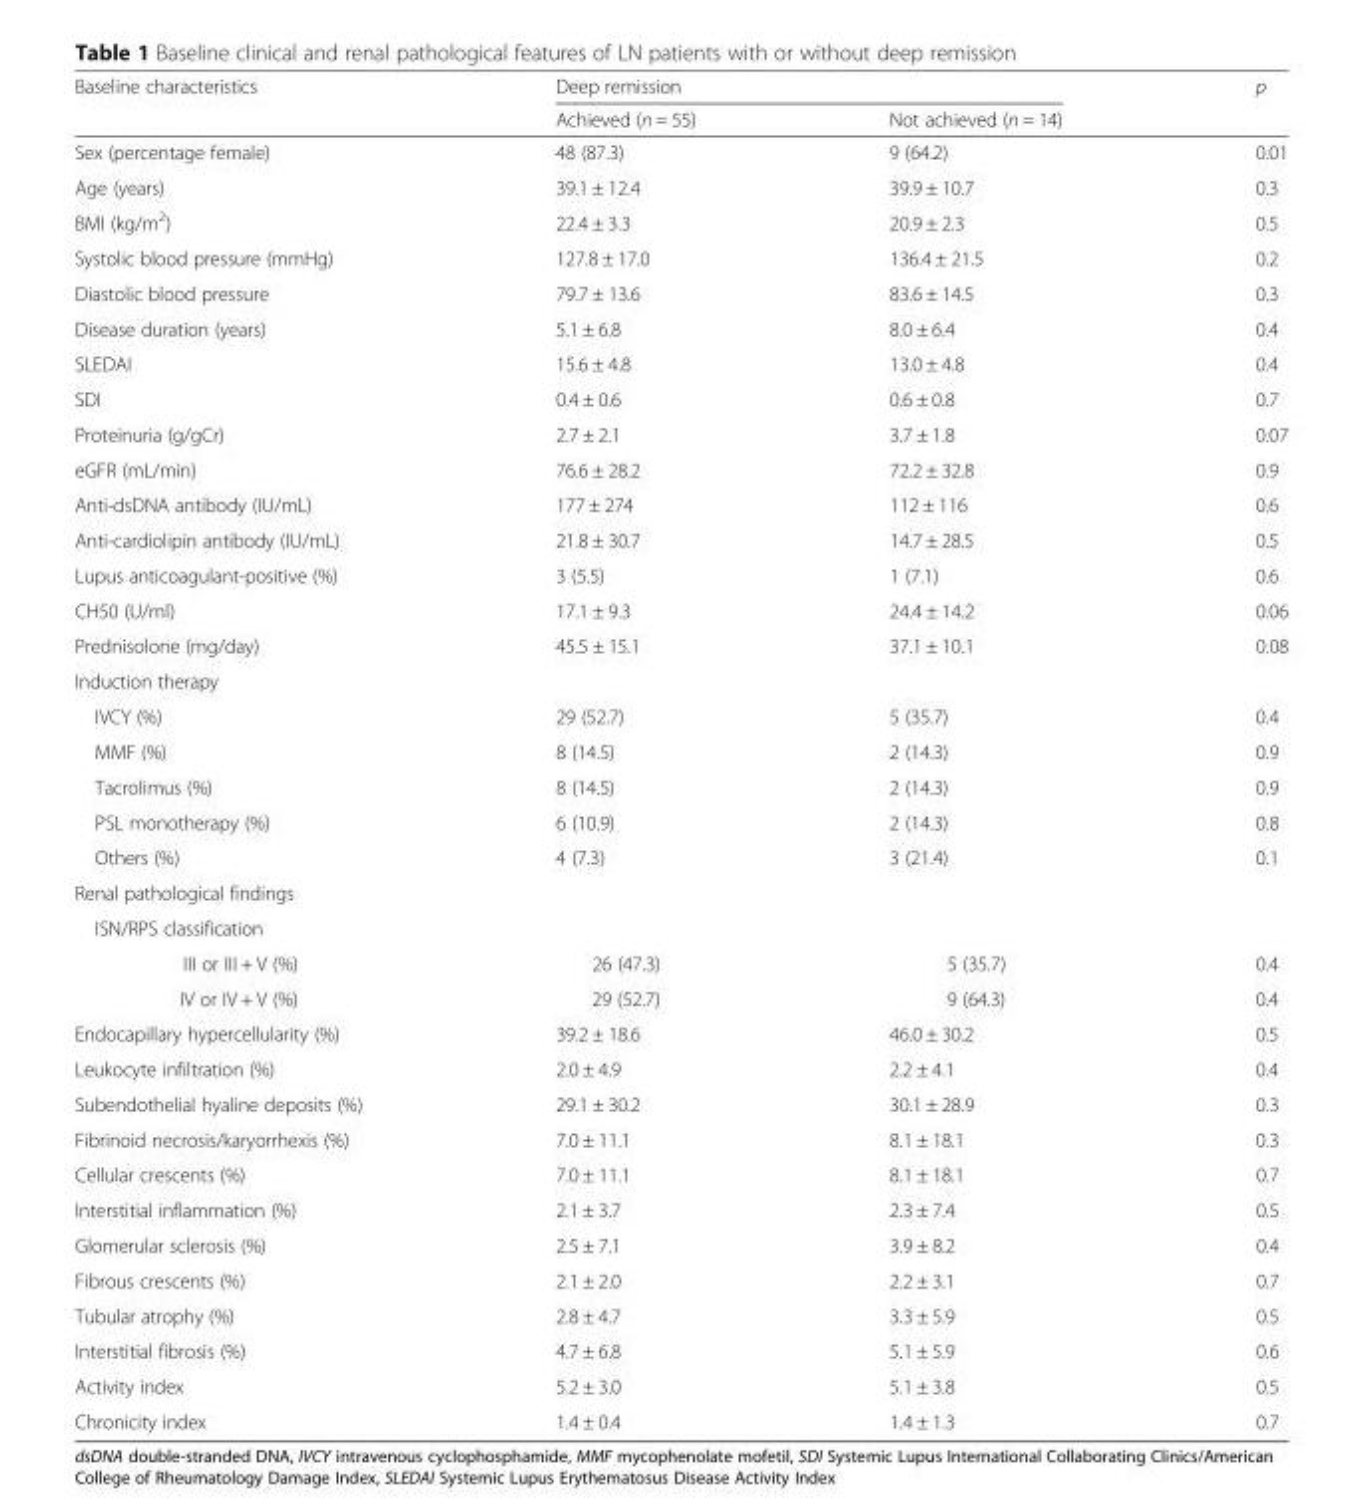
<table><thead><tr><td rowspan="2">Baseline characteristics</td><td colspan="2">Deep remission</td><td rowspan="2">p</td></tr><tr><td>Achieved (n = 55)</td><td>Not achieved (n = 14)</td></tr></thead><tbody><tr><td>Sex (percentage female)</td><td>48 (87.3)</td><td>9 (64.2)</td><td>0.01</td></tr><tr><td>Age (years)</td><td>39.1 ± 12.4</td><td>39.9 ± 10.7</td><td>0.3</td></tr><tr><td>BMI (kg/m<sup>2</sup>)</td><td>22.4 ± 3.3</td><td>20.9 ± 2.3</td><td>0.5</td></tr><tr><td>Systolic blood pressure (mmHg)</td><td>127.8 ± 17.0</td><td>136.4 ± 21.5</td><td>0.2</td></tr><tr><td>Diastolic blood pressure</td><td>79.7 ± 13.6</td><td>83.6 ± 14.5</td><td>0.3</td></tr><tr><td>Disease duration (years)</td><td>5.1 ± 6.8</td><td>8.0 ± 6.4</td><td>0.4</td></tr><tr><td>SLEDAI</td><td>15.6 ± 4.8</td><td>13.0 ± 4.8</td><td>0.4</td></tr><tr><td>SDI</td><td>0.4 ± 0.6</td><td>0.6 ± 0.8</td><td>0.7</td></tr><tr><td>Proteinuria (g/gCr)</td><td>2.7 ± 2.1</td><td>3.7 ± 1.8</td><td>0.07</td></tr><tr><td>eGFR (mL/min)</td><td>76.6 ± 28.2</td><td>72.2 ± 32.8</td><td>0.9</td></tr><tr><td>Anti-dsDNA antibody (IU/mL)</td><td>177 ± 274</td><td>112 ± 116</td><td>0.6</td></tr><tr><td>Anti-cardiolipin antibody (IU/mL)</td><td>21.8 ± 30.7</td><td>14.7 ± 28.5</td><td>0.5</td></tr><tr><td>Lupus anticoagulant-positive (%)</td><td>3 (5.5)</td><td>1 (7.1)</td><td>0.6</td></tr><tr><td>CH50 (U/ml)</td><td>17.1 ± 9.3</td><td>24.4 ± 14.2</td><td>0.06</td></tr><tr><td>Prednisolone (mg/day)</td><td>45.5 ± 15.1</td><td>37.1 ± 10.1</td><td>0.08</td></tr><tr><td colspan="4">Induction therapy</td></tr><tr><td>IVCY (%)</td><td>29 (52.7)</td><td>5 (35.7)</td><td>0.4</td></tr><tr><td>MMF (%)</td><td>8 (14.5)</td><td>2 (14.3)</td><td>0.9</td></tr><tr><td>Tacrolimus (%)</td><td>8 (14.5)</td><td>2 (14.3)</td><td>0.9</td></tr><tr><td>PSL monotherapy (%)</td><td>6 (10.9)</td><td>2 (14.3)</td><td>0.8</td></tr><tr><td>Others (%)</td><td>4 (7.3)</td><td>3 (21.4)</td><td>0.1</td></tr><tr><td colspan="4">Renal pathological findings</td></tr><tr><td colspan="4">ISN/RPS classification</td></tr><tr><td>III or III + V (%)</td><td>26 (47.3)</td><td>5 (35.7)</td><td>0.4</td></tr><tr><td>IV or IV + V (%)</td><td>29 (52.7)</td><td>9 (64.3)</td><td>0.4</td></tr><tr><td>Endocapillary hypercellularity (%)</td><td>39.2 ± 18.6</td><td>46.0 ± 30.2</td><td>0.5</td></tr><tr><td>Leukocyte infiltration (%)</td><td>2.0 ± 4.9</td><td>2.2 ± 4.1</td><td>0.4</td></tr><tr><td>Subendothelial hyaline deposits (%)</td><td>29.1 ± 30.2</td><td>30.1 ± 28.9</td><td>0.3</td></tr><tr><td>Fibrinoid necrosis/karyorrhexis (%)</td><td>7.0 ± 11.1</td><td>8.1 ± 18.1</td><td>0.3</td></tr><tr><td>Cellular crescents (%)</td><td>7.0 ± 11.1</td><td>8.1 ± 18.1</td><td>0.7</td></tr><tr><td>Interstitial inflammation (%)</td><td>2.1 ± 3.7</td><td>2.3 ± 7.4</td><td>0.5</td></tr><tr><td>Glomerular sclerosis (%)</td><td>2.5 ± 7.1</td><td>3.9 ± 8.2</td><td>0.4</td></tr><tr><td>Fibrous crescents (%)</td><td>2.1 ± 2.0</td><td>2.2 ± 3.1</td><td>0.7</td></tr><tr><td>Tubular atrophy (%)</td><td>2.8 ± 4.7</td><td>3.3 ± 5.9</td><td>0.5</td></tr><tr><td>Interstitial fibrosis (%)</td><td>4.7 ± 6.8</td><td>5.1 ± 5.9</td><td>0.6</td></tr><tr><td>Activity index</td><td>5.2 ± 3.0</td><td>5.1 ± 3.8</td><td>0.5</td></tr><tr><td>Chronicity index</td><td>1.4 ± 0.4</td><td>1.4 ± 1.3</td><td>0.7</td></tr></tbody></table>